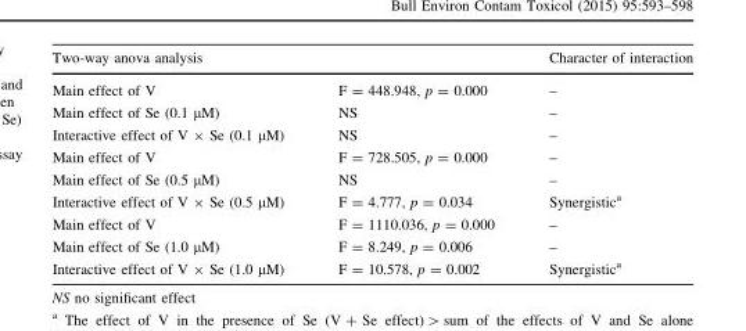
<table><thead><tr><td colspan="2">Two-way anova analysis</td><td rowspan="2">Character of interaction –</td></tr><tr><td>Main effect of V</td><td>F = 448.948, p = 0.000</td></tr></thead><tbody><tr><td>Main effect of Se (0.1 μM)</td><td>NS</td><td>–</td></tr><tr><td>Interactive effect of V × Se (0.1 μM)</td><td>NS</td><td>–</td></tr><tr><td>Main effect of V</td><td>F = 728.505, p = 0.000</td><td>–</td></tr><tr><td>Main effect of Se (0.5 μM)</td><td>NS</td><td>–</td></tr><tr><td>Interactive effect of V × Se (0.5 μM)</td><td>F = 4.777, p = 0.034</td><td>Synergistic<sup>a</sup></td></tr><tr><td>Main effect of V</td><td>F = 1110.036, p = 0.000</td><td>–</td></tr><tr><td>Main effect of Se (1.0 μM)</td><td>F = 8.249, p = 0.006</td><td>–</td></tr><tr><td>Interactive effect of V × Se (1.0 μM)</td><td>F = 10.578, p = 0.002</td><td>Synergistic<sup>a</sup></td></tr></tbody></table>